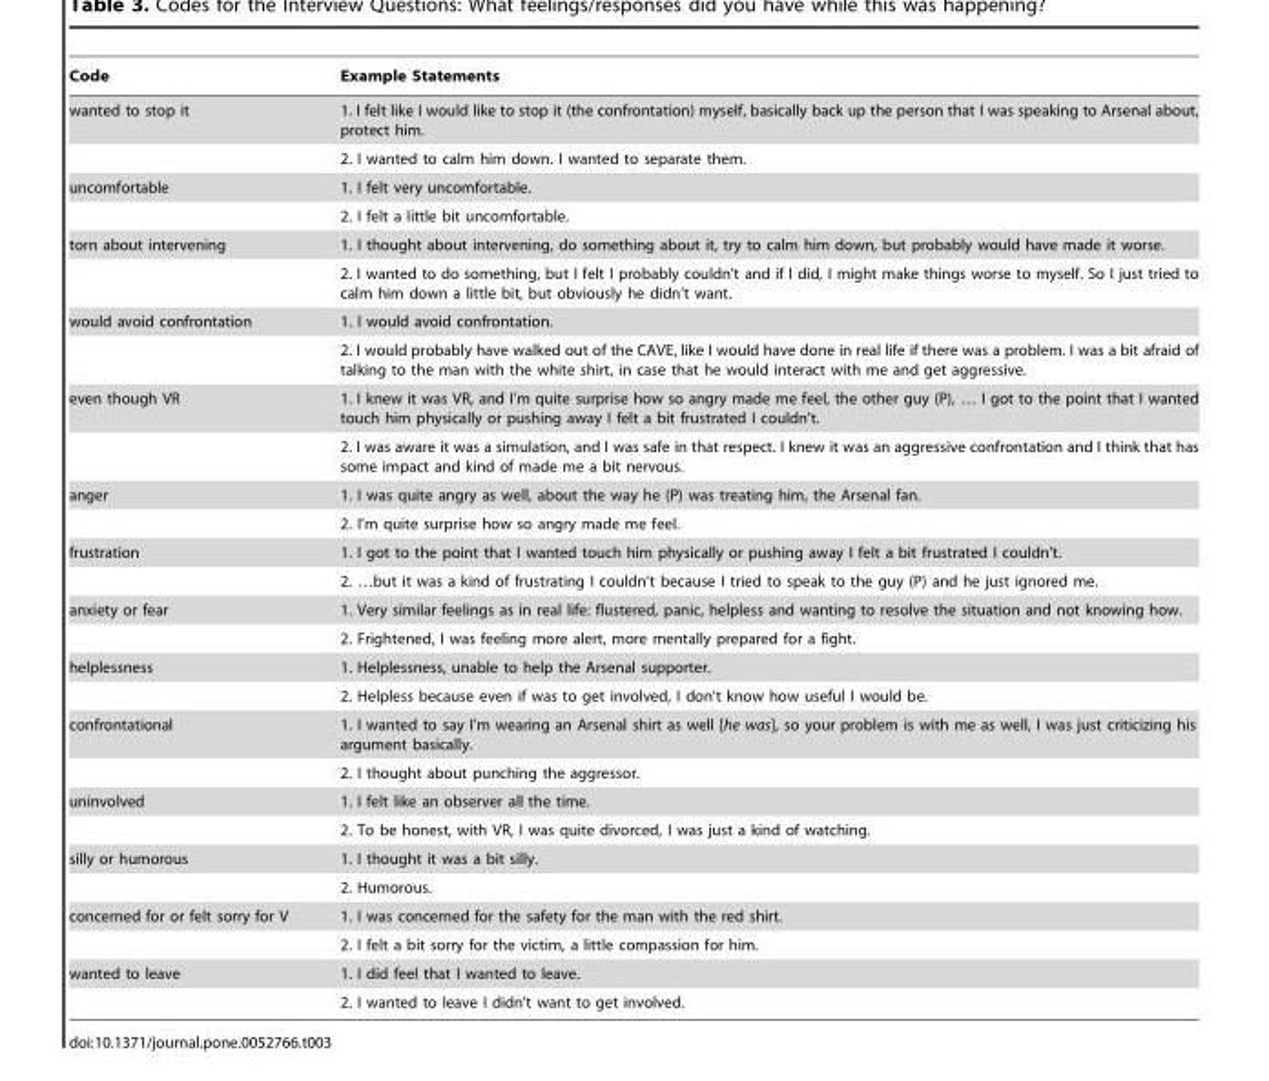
<table><thead><tr><td>Code</td><td>Example Statements</td></tr></thead><tbody><tr><td rowspan="2">wanted to stop it</td><td>1. I felt like I would like to stop it (the confrontation) myself, basically back up the person that I was speaking to Arsenal about, protect him.</td></tr><tr><td>2. I wanted to calm him down. I wanted to separate them.</td></tr><tr><td rowspan="2">uncomfortable</td><td>1. I felt very uncomfortable.</td></tr><tr><td>2. I felt a little bit uncomfortable.</td></tr><tr><td rowspan="2">torn about intervening</td><td>1. I thought about intervening, do something about it, try to calm him down, but probably would have made it worse.</td></tr><tr><td>2. I wanted to do something, but I felt I probably couldn’t and if I did, I might make things worse to myself. So I just tried to calm him down a little bit, but obviously he didn’t want.</td></tr><tr><td rowspan="2">would avoid confrontation</td><td>1. I would avoid confrontation.</td></tr><tr><td>2. I would probably have walked out of the CAVE, like I would have done in real life if there was a problem. I was a bit afraid of talking to the man with the white shirt, in case that he would interact with me and get aggressive.</td></tr><tr><td rowspan="2">even though VR</td><td>1. I knew it was VR, and I’m quite surprise how so angry made me feel, the other guy (P), … I got to the point that I wanted touch him physically or pushing away I felt a bit frustrated I couldn’t.</td></tr><tr><td>2. I was aware it was a simulation, and I was safe in that respect. I knew it was an aggressive confrontation and I think that has some impact and kind of made me a bit nervous.</td></tr><tr><td rowspan="2">anger</td><td>1. I was quite angry as well, about the way he (P) was treating him, the Arsenal fan.</td></tr><tr><td>2. I’m quite surprise how so angry made me feel.</td></tr><tr><td rowspan="2">frustration</td><td>1. I got to the point that I wanted touch him physically or pushing away I felt a bit frustrated I couldn’t.</td></tr><tr><td>2. …but it was a kind of frustrating I couldn’t because I tried to speak to the guy (P) and he just ignored me.</td></tr><tr><td rowspan="2">anxiety or fear</td><td>1. Very similar feelings as in real life: flustered, panic, helpless and wanting to resolve the situation and not knowing how.</td></tr><tr><td>2. Frightened, I was feeling more alert, more mentally prepared for a fight.</td></tr><tr><td rowspan="2">helplessness</td><td>1. Helplessness, unable to help the Arsenal supporter.</td></tr><tr><td>2. Helpless because even if was to get involved, I don’t know how useful I would be.</td></tr><tr><td rowspan="2">confrontational</td><td>1. I wanted to say I’m wearing an Arsenal shirt as well [he was], so your problem is with me as well, I was just criticizing his argument basically.</td></tr><tr><td>2. I thought about punching the aggressor.</td></tr><tr><td rowspan="2">uninvolved</td><td>1. I felt like an observer all the time.</td></tr><tr><td>2. To be honest, with VR, I was quite divorced, I was just a kind of watching.</td></tr><tr><td rowspan="2">silly or humorous</td><td>1. I thought it was a bit silly.</td></tr><tr><td>2. Humorous.</td></tr><tr><td rowspan="2">concerned for or felt sorry for V</td><td>1. I was concerned for the safety for the man with the red shirt.</td></tr><tr><td>2. I felt a bit sorry for the victim, a little compassion for him.</td></tr><tr><td rowspan="2">wanted to leave</td><td>1. I did feel that I wanted to leave.</td></tr><tr><td>2. I wanted to leave I didn’t want to get involved.</td></tr></tbody></table>